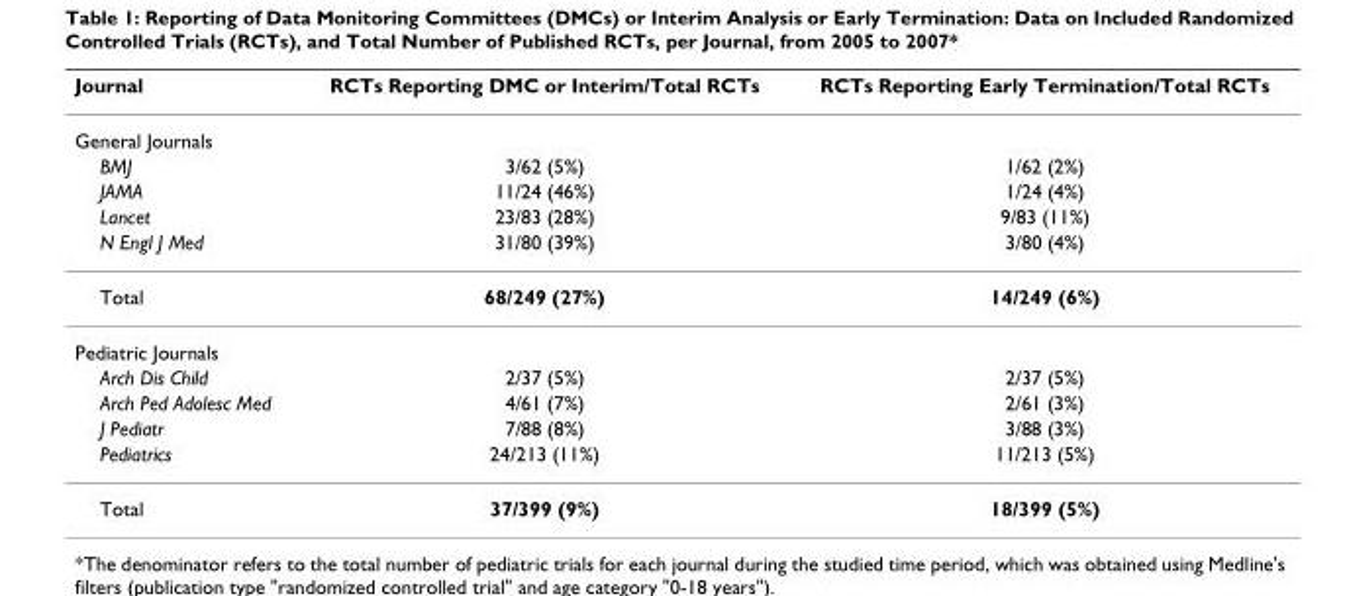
<table><thead><tr><td>Journal</td><td>RCTs Reporting DMC or Interim/Total RCTs</td><td>RCTs Reporting Early Termination/Total RCTs</td></tr></thead><tbody><tr><td colspan="3">General Journals</td></tr><tr><td>BMJ</td><td>3/62 (5%)</td><td>1/62 (2%)</td></tr><tr><td>JAMA</td><td>11/24 (46%)</td><td>1/24 (4%)</td></tr><tr><td>Lancet</td><td>23/83 (28%)</td><td>9/83 (11%)</td></tr><tr><td>N Engl J Med</td><td>31/80 (39%)</td><td>3/80 (4%)</td></tr><tr><td>Total</td><td>68/249 (27%)</td><td>14/249 (6%)</td></tr><tr><td colspan="3">Pediatric Journals</td></tr><tr><td>Arch Dis Child</td><td>2/37 (5%)</td><td>2/37 (5%)</td></tr><tr><td>Arch Ped Adolesc Med</td><td>4/61 (7%)</td><td>2/61 (3%)</td></tr><tr><td>J Pediatr</td><td>7/88 (8%)</td><td>3/88 (3%)</td></tr><tr><td>Pediatrics</td><td>24/213 (11%)</td><td>11/213 (5%)</td></tr><tr><td>Total</td><td>37/399 (9%)</td><td>18/399 (5%)</td></tr></tbody></table>